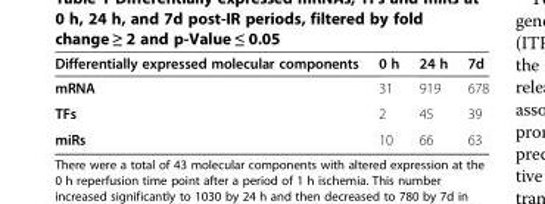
<table><thead><tr><td>Differentially expressed molecular components</td><td>0 h</td><td>24 h</td><td>7d</td></tr></thead><tbody><tr><td>mRNA</td><td>31</td><td>919</td><td>678</td></tr><tr><td>TFs</td><td>2</td><td>45</td><td>39</td></tr><tr><td>miRs</td><td>10</td><td>66</td><td>63</td></tr></tbody></table>